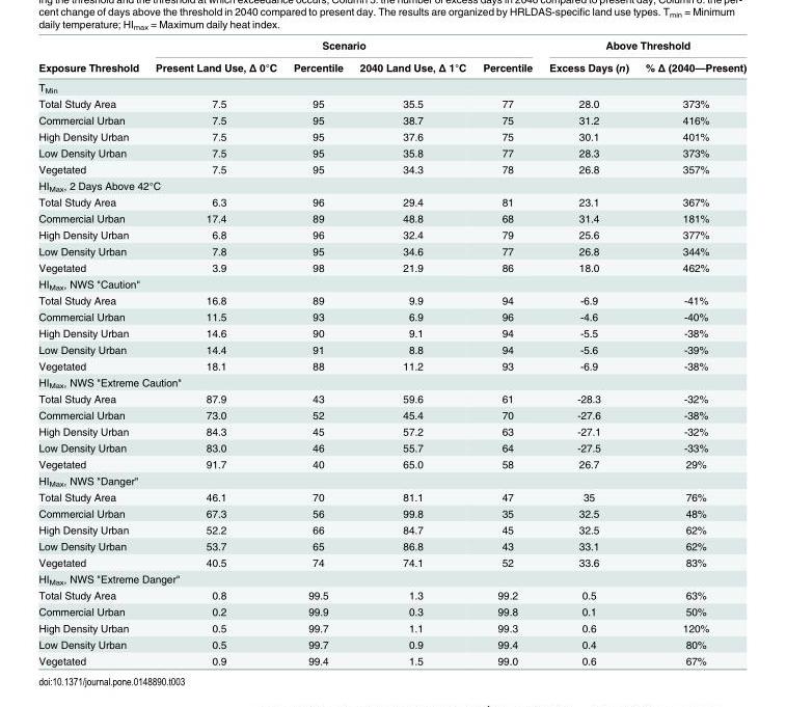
<table><thead><tr><td rowspan="2">Exposure Threshold</td><td colspan="4">Scenario</td><td colspan="2">Above Threshold</td></tr><tr><td>Present Land Use, Δ 0°C</td><td>Percentile</td><td>2040 Land Use, Δ 1°C</td><td>Percentile</td><td>Excess Days (n)</td><td>% Δ (2040—Present)</td></tr></thead><tbody><tr><td colspan="7">T<sub>Min</sub></td></tr><tr><td>Total Study Area</td><td>7.5</td><td>95</td><td>35.5</td><td>77</td><td>28.0</td><td>373%</td></tr><tr><td>Commercial Urban</td><td>7.5</td><td>95</td><td>38.7</td><td>75</td><td>31.2</td><td>416%</td></tr><tr><td>High Density Urban</td><td>7.5</td><td>95</td><td>37.6</td><td>75</td><td>30.1</td><td>401%</td></tr><tr><td>Low Density Urban</td><td>7.5</td><td>95</td><td>35.8</td><td>77</td><td>28.3</td><td>373%</td></tr><tr><td>Vegetated</td><td>7.5</td><td>95</td><td>34.3</td><td>78</td><td>26.8</td><td>357%</td></tr><tr><td colspan="7">HI<sub>Max</sub>, 2 Days Above 42°C</td></tr><tr><td>Total Study Area</td><td>6.3</td><td>96</td><td>29.4</td><td>81</td><td>23.1</td><td>367%</td></tr><tr><td>Commercial Urban</td><td>17.4</td><td>89</td><td>48.8</td><td>68</td><td>31.4</td><td>181%</td></tr><tr><td>High Density Urban</td><td>6.8</td><td>96</td><td>32.4</td><td>79</td><td>25.6</td><td>377%</td></tr><tr><td>Low Density Urban</td><td>7.8</td><td>95</td><td>34.6</td><td>77</td><td>26.8</td><td>344%</td></tr><tr><td>Vegetated</td><td>3.9</td><td>98</td><td>21.9</td><td>86</td><td>18.0</td><td>462%</td></tr><tr><td colspan="7">HI<sub>Max</sub>, NWS &quot;Caution&quot;</td></tr><tr><td>Total Study Area</td><td>16.8</td><td>89</td><td>9.9</td><td>94</td><td>-6.9</td><td>-41%</td></tr><tr><td>Commercial Urban</td><td>11.5</td><td>93</td><td>6.9</td><td>96</td><td>-4.6</td><td>-40%</td></tr><tr><td>High Density Urban</td><td>14.6</td><td>90</td><td>9.1</td><td>94</td><td>-5.5</td><td>-38%</td></tr><tr><td>Low Density Urban</td><td>14.4</td><td>91</td><td>8.8</td><td>94</td><td>-5.6</td><td>-39%</td></tr><tr><td>Vegetated</td><td>18.1</td><td>88</td><td>11.2</td><td>93</td><td>-6.9</td><td>-38%</td></tr><tr><td colspan="7">HI<sub>Max</sub>, NWS &quot;Extreme Caution&quot;</td></tr><tr><td>Total Study Area</td><td>87.9</td><td>43</td><td>59.6</td><td>61</td><td>-28.3</td><td>-32%</td></tr><tr><td>Commercial Urban</td><td>73.0</td><td>52</td><td>45.4</td><td>70</td><td>-27.6</td><td>-38%</td></tr><tr><td>High Density Urban</td><td>84.3</td><td>45</td><td>57.2</td><td>63</td><td>-27.1</td><td>-32%</td></tr><tr><td>Low Density Urban</td><td>83.0</td><td>46</td><td>55.7</td><td>64</td><td>-27.5</td><td>-33%</td></tr><tr><td>Vegetated</td><td>91.7</td><td>40</td><td>65.0</td><td>58</td><td>26.7</td><td>29%</td></tr><tr><td colspan="7">HI<sub>Max</sub>, NWS &quot;Danger&quot;</td></tr><tr><td>Total Study Area</td><td>46.1</td><td>70</td><td>81.1</td><td>47</td><td>35</td><td>76%</td></tr><tr><td>Commercial Urban</td><td>67.3</td><td>56</td><td>99.8</td><td>35</td><td>32.5</td><td>48%</td></tr><tr><td>High Density Urban</td><td>52.2</td><td>66</td><td>84.7</td><td>45</td><td>32.5</td><td>62%</td></tr><tr><td>Low Density Urban</td><td>53.7</td><td>65</td><td>86.8</td><td>43</td><td>33.1</td><td>62%</td></tr><tr><td>Vegetated</td><td>40.5</td><td>74</td><td>74.1</td><td>52</td><td>33.6</td><td>83%</td></tr><tr><td colspan="7">HI<sub>Max</sub>, NWS &quot;Extreme Danger&quot;</td></tr><tr><td>Total Study Area</td><td>0.8</td><td>99.5</td><td>1.3</td><td>99.2</td><td>0.5</td><td>63%</td></tr><tr><td>Commercial Urban</td><td>0.2</td><td>99.9</td><td>0.3</td><td>99.8</td><td>0.1</td><td>50%</td></tr><tr><td>High Density Urban</td><td>0.5</td><td>99.7</td><td>1.1</td><td>99.3</td><td>0.6</td><td>120%</td></tr><tr><td>Low Density Urban</td><td>0.5</td><td>99.7</td><td>0.9</td><td>99.4</td><td>0.4</td><td>80%</td></tr><tr><td>Vegetated</td><td>0.9</td><td>99.4</td><td>1.5</td><td>99.0</td><td>0.6</td><td>67%</td></tr></tbody></table>